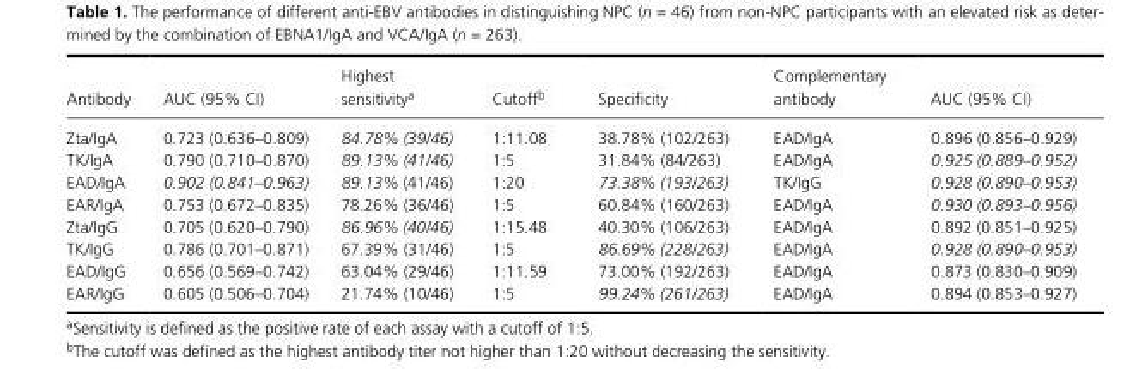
<table><thead><tr><td>Antibody</td><td>AUC (95% CI)</td><td>Highest sensitivity<sup>a</sup></td><td>Cutoff<sup>b</sup></td><td>Specificity</td><td>Complementary antibody</td><td>AUC (95% CI)</td></tr></thead><tbody><tr><td>Zta/IgA</td><td>0.723 (0.636–0.809)</td><td>84.78% (39/46)</td><td>1:11.08</td><td>38.78% (102/263)</td><td>EAD/IgA</td><td>0.896 (0.856–0.929)</td></tr><tr><td>TK/IgA</td><td>0.790 (0.710–0.870)</td><td>89.13% (41/46)</td><td>1:5</td><td>31.84% (84/263)</td><td>EAD/IgA</td><td>0.925 (0.889–0.952)</td></tr><tr><td>EAD/IgA</td><td>0.902 (0.841–0.963)</td><td>89.13% (41/46)</td><td>1:20</td><td>73.38% (193/263)</td><td>TK/IgG</td><td>0.928 (0.890–0.953)</td></tr><tr><td>EAR/IgA</td><td>0.753 (0.672–0.835)</td><td>78.26% (36/46)</td><td>1:5</td><td>60.84% (160/263)</td><td>EAD/IgA</td><td>0.930 (0.893–0.956)</td></tr><tr><td>Zta/IgG</td><td>0.705 (0.620–0.790)</td><td>86.96% (40/46)</td><td>1:15.48</td><td>40.30% (106/263)</td><td>EAD/IgA</td><td>0.892 (0.851–0.925)</td></tr><tr><td>TK/IgG</td><td>0.786 (0.701–0.871)</td><td>67.39% (31/46)</td><td>1:5</td><td>86.69% (228/263)</td><td>EAD/IgA</td><td>0.928 (0.890–0.953)</td></tr><tr><td>EAD/IgG</td><td>0.656 (0.569–0.742)</td><td>63.04% (29/46)</td><td>1:11.59</td><td>73.00% (192/263)</td><td>EAD/IgA</td><td>0.873 (0.830–0.909)</td></tr><tr><td>EAR/IgG</td><td>0.605 (0.506–0.704)</td><td>21.74% (10/46)</td><td>1:5</td><td>99.24% (261/263)</td><td>EAD/IgA</td><td>0.894 (0.853–0.927)</td></tr></tbody></table>